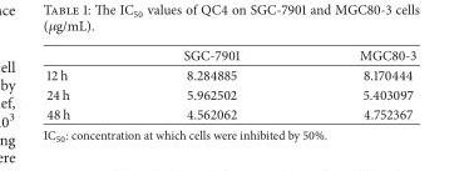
<table><thead><tr><td></td><td>SGC-7901</td><td>MGC80-3</td></tr></thead><tbody><tr><td>12 h</td><td>8.284885</td><td>8.170444</td></tr><tr><td>24 h</td><td>5.962502</td><td>5.403097</td></tr><tr><td>48 h</td><td>4.562062</td><td>4.752367</td></tr></tbody></table>